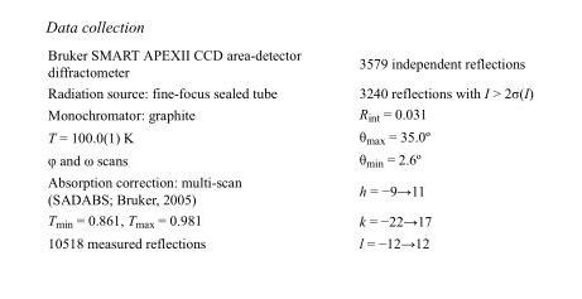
<table><tbody><tr><td>Bruker SMART APEXII CCD area-detector diffractometer</td><td>3579 independent reflections</td></tr><tr><td>Radiation source: fine-focus sealed tube</td><td>3240 reflections with I &gt; 2σ(I)</td></tr><tr><td>Monochromator: graphite</td><td>R<sub>int</sub> = 0.031</td></tr><tr><td>T = 100.0(1) K</td><td>θ<sub>max</sub> = 35.0º</td></tr><tr><td>φ and ω scans</td><td>θ<sub>min</sub> = 2.6º</td></tr><tr><td>Absorption correction: multi-scan (SADABS; Bruker, 2005)</td><td>h = −9→11</td></tr><tr><td>T<sub>min</sub> = 0.861, T<sub>max</sub> = 0.981</td><td>k = −22→17</td></tr><tr><td>10518 measured reflections</td><td>l = −12→12</td></tr></tbody></table>